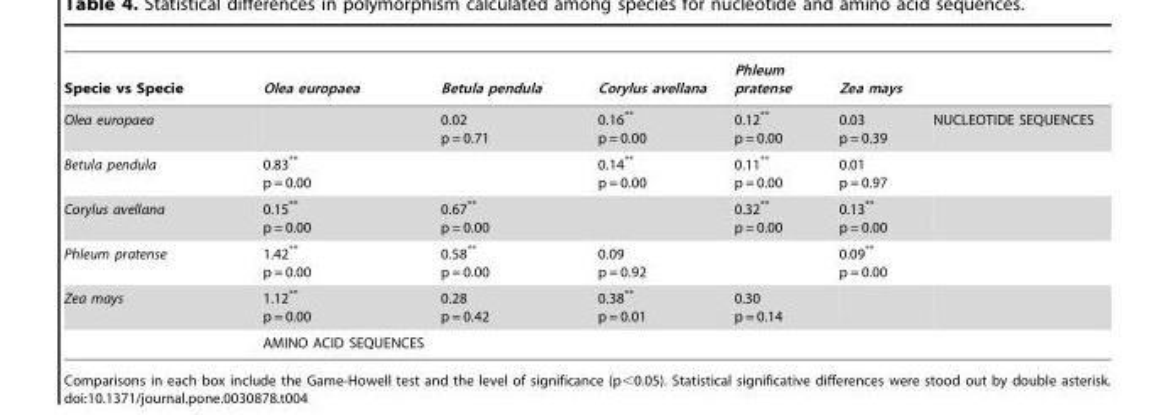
<table><thead><tr><td>Specie vs Specie</td><td>Olea europaea</td><td>Betula pendula</td><td>Corylus avellana</td><td>Phleum pratense</td><td>Zea mays</td><td></td></tr></thead><tbody><tr><td>Olea europaea</td><td></td><td>0.02 p = 0.71</td><td>0.16** p = 0.00</td><td>0.12** p = 0.00</td><td>0.03 p = 0.39</td><td>NUCLEOTIDE SEQUENCES</td></tr><tr><td>Betula pendula</td><td>0.83** p = 0.00</td><td></td><td>0.14** p = 0.00</td><td>0.11** p = 0.00</td><td>0.01 p = 0.97</td><td></td></tr><tr><td>Corylus avellana</td><td>0.15** p = 0.00</td><td>0.67** p = 0.00</td><td></td><td>0.32** p = 0.00</td><td>0.13** p = 0.00</td><td></td></tr><tr><td>Phleum pratense</td><td>1.42** p = 0.00</td><td>0.58** p = 0.00</td><td>0.09 p = 0.92</td><td></td><td>0.09** p = 0.00</td><td></td></tr><tr><td rowspan="2">Zea mays</td><td>1.12** p = 0.00</td><td>0.28 p = 0.42</td><td>0.38** p = 0.01</td><td>0.30 p = 0.14</td><td></td><td></td></tr><tr><td colspan="5">AMINO ACID SEQUENCES</td><td></td></tr></tbody></table>